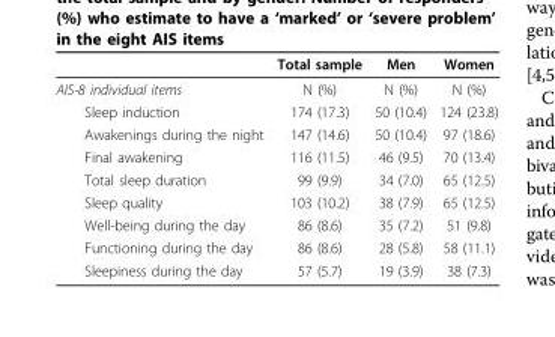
<table><thead><tr><td></td><td>Total sample</td><td>Men</td><td>Women</td></tr></thead><tbody><tr><td>AIS-8 individual items</td><td>N (%)</td><td>N (%)</td><td>N (%)</td></tr><tr><td>Sleep induction</td><td>174 (17.3)</td><td>50 (10.4)</td><td>124 (23.8)</td></tr><tr><td>Awakenings during the night</td><td>147 (14.6)</td><td>50 (10.4)</td><td>97 (18.6)</td></tr><tr><td>Final awakening</td><td>116 (11.5)</td><td>46 (9.5)</td><td>70 (13.4)</td></tr><tr><td>Total sleep duration</td><td>99 (9.9)</td><td>34 (7.0)</td><td>65 (12.5)</td></tr><tr><td>Sleep quality</td><td>103 (10.2)</td><td>38 (7.9)</td><td>65 (12.5)</td></tr><tr><td>Well-being during the day</td><td>86 (8.6)</td><td>35 (7.2)</td><td>51 (9.8)</td></tr><tr><td>Functioning during the day</td><td>86 (8.6)</td><td>28 (5.8)</td><td>58 (11.1)</td></tr><tr><td>Sleepiness during the day</td><td>57 (5.7)</td><td>19 (3.9)</td><td>38 (7.3)</td></tr></tbody></table>